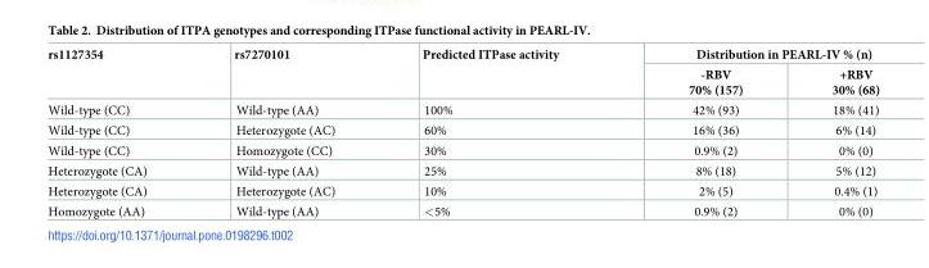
<table><thead><tr><td rowspan="2">rs1127354</td><td rowspan="2">rs7270101</td><td rowspan="2">Predicted ITPase activity</td><td colspan="2">Distribution in PEARL-IV % (n)</td></tr><tr><td>-RBV 70% (157)</td><td>+RBV 30% (68)</td></tr></thead><tbody><tr><td>Wild-type (CC)</td><td>Wild-type (AA)</td><td>100%</td><td>42% (93)</td><td>18% (41)</td></tr><tr><td>Wild-type (CC)</td><td>Heterozygote (AC)</td><td>60%</td><td>16% (36)</td><td>6% (14)</td></tr><tr><td>Wild-type (CC)</td><td>Homozygote (CC)</td><td>30%</td><td>0.9% (2)</td><td>0% (0)</td></tr><tr><td>Heterozygote (CA)</td><td>Wild-type (AA)</td><td>25%</td><td>8% (18)</td><td>5% (12)</td></tr><tr><td>Heterozygote (CA)</td><td>Heterozygote (AC)</td><td>10%</td><td>2% (5)</td><td>0.4% (1)</td></tr><tr><td>Homozygote (AA)</td><td>Wild-type (AA)</td><td>&lt;5%</td><td>0.9% (2)</td><td>0% (0)</td></tr></tbody></table>